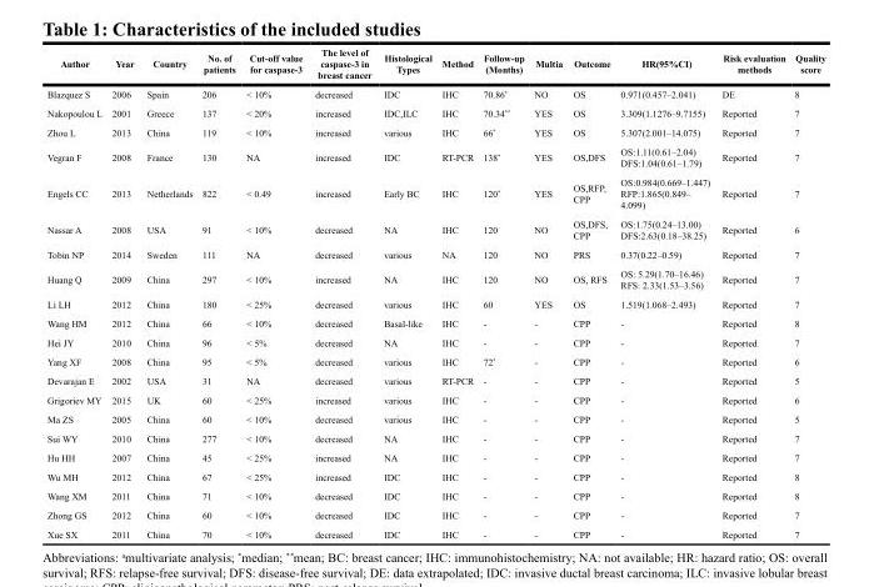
<table><thead><tr><td>Author</td><td>Year</td><td>Country</td><td>No. of patients</td><td>Cut-off value for caspase-3</td><td>The level of caspase-3 in breast cancer</td><td>Histological Types</td><td>Method</td><td>Follow-up (Months)</td><td>Multia</td><td>Outcome</td><td>HR(95%CI)</td><td>Risk evaluation methods</td><td>Quality score</td></tr></thead><tbody><tr><td>Blazquez S</td><td>2006</td><td>Spain</td><td>206</td><td>&lt; 10%</td><td>decreased</td><td>IDC</td><td>IHC</td><td>70.86*</td><td>NO</td><td>OS</td><td>0.971(0.457–2.041)</td><td>DE</td><td>8</td></tr><tr><td>Nakopoulou L</td><td>2001</td><td>Greece</td><td>137</td><td>&lt; 20%</td><td>increased</td><td>IDC,ILC</td><td>IHC</td><td>70.34**</td><td>YES</td><td>OS</td><td>3.309(1.1276–9.7155)</td><td>Reported</td><td>7</td></tr><tr><td>Zhou L</td><td>2013</td><td>China</td><td>119</td><td>&lt; 10%</td><td>increased</td><td>various</td><td>IHC</td><td>66*</td><td>YES</td><td>OS</td><td>5.307(2.001–14.075)</td><td>Reported</td><td>7</td></tr><tr><td>Vegran F</td><td>2008</td><td>France</td><td>130</td><td>NA</td><td>increased</td><td>IDC</td><td>RT-PCR</td><td>138*</td><td>YES</td><td>OS,DFS</td><td>OS:1.11(0.61–2.04) DFS:1.04(0.61–1.79)</td><td>Reported</td><td>7</td></tr><tr><td>Engels CC</td><td>2013</td><td>Netherlands</td><td>822</td><td>&lt; 0.49</td><td>increased</td><td>Early BC</td><td>IHC</td><td>120*</td><td>YES</td><td>OS,RFP, CPP</td><td>OS:0.984(0.669–1.447) RFP:1.865(0.849– 4.099)</td><td>Reported</td><td>7</td></tr><tr><td>Nassar A</td><td>2008</td><td>USA</td><td>91</td><td>&lt; 10%</td><td>decreased</td><td>NA</td><td>IHC</td><td>120</td><td>NO</td><td>OS,DFS, CPP</td><td>OS:1.75(0.24–13.00) DFS:2.63(0.18–38.25)</td><td>Reported</td><td>6</td></tr><tr><td>Tobin NP</td><td>2014</td><td>Sweden</td><td>111</td><td>NA</td><td>decreased</td><td>various</td><td>NA</td><td>120</td><td>NO</td><td>PRS</td><td>0.37(0.22–0.59)</td><td>Reported</td><td>7</td></tr><tr><td>Huang Q</td><td>2009</td><td>China</td><td>297</td><td>&lt; 10%</td><td>increased</td><td>NA</td><td>IHC</td><td>120</td><td>NO</td><td>OS, RFS</td><td>OS: 5.29(1.70–16.46) RFS: 2.33(1.53–3.56)</td><td>Reported</td><td>7</td></tr><tr><td>Li LH</td><td>2012</td><td>China</td><td>180</td><td>&lt; 25%</td><td>decreased</td><td>various</td><td>IHC</td><td>60</td><td>YES</td><td>OS</td><td>1.519(1.068–2.493)</td><td>Reported</td><td>7</td></tr><tr><td>Wang HM</td><td>2012</td><td>China</td><td>66</td><td>&lt; 10%</td><td>decreased</td><td>Basal-like</td><td>IHC</td><td>-</td><td>-</td><td>CPP</td><td>-</td><td>Reported</td><td>8</td></tr><tr><td>Hei JY</td><td>2010</td><td>China</td><td>96</td><td>&lt; 5%</td><td>decreased</td><td>NA</td><td>IHC</td><td>-</td><td>-</td><td>CPP</td><td>-</td><td>Reported</td><td>7</td></tr><tr><td>Yang XF</td><td>2008</td><td>China</td><td>95</td><td>&lt; 5%</td><td>decreased</td><td>various</td><td>IHC</td><td>72*</td><td>-</td><td>CPP</td><td>-</td><td>Reported</td><td>6</td></tr><tr><td>Devarajan E</td><td>2002</td><td>USA</td><td>31</td><td>NA</td><td>decreased</td><td>various</td><td>RT-PCR</td><td>-</td><td>-</td><td>CPP</td><td>-</td><td>Reported</td><td>5</td></tr><tr><td>Grigoriev MY</td><td>2015</td><td>UK</td><td>60</td><td>&lt; 25%</td><td>increased</td><td>various</td><td>IHC</td><td>-</td><td>-</td><td>CPP</td><td>-</td><td>Reported</td><td>6</td></tr><tr><td>Ma ZS</td><td>2005</td><td>China</td><td>60</td><td>&lt; 10%</td><td>decreased</td><td>various</td><td>IHC</td><td>-</td><td>-</td><td>CPP</td><td>-</td><td>Reported</td><td>5</td></tr><tr><td>Sui WY</td><td>2010</td><td>China</td><td>277</td><td>&lt; 10%</td><td>decreased</td><td>NA</td><td>IHC</td><td>-</td><td>-</td><td>CPP</td><td>-</td><td>Reported</td><td>7</td></tr><tr><td>Hu HH</td><td>2007</td><td>China</td><td>45</td><td>&lt; 25%</td><td>increased</td><td>NA</td><td>IHC</td><td>-</td><td>-</td><td>CPP</td><td>-</td><td>Reported</td><td>7</td></tr><tr><td>Wu MH</td><td>2012</td><td>China</td><td>67</td><td>&lt; 25%</td><td>increased</td><td>IDC</td><td>IHC</td><td>-</td><td>-</td><td>CPP</td><td>-</td><td>Reported</td><td>8</td></tr><tr><td>Wang XM</td><td>2011</td><td>China</td><td>71</td><td>&lt; 10%</td><td>decreased</td><td>IDC</td><td>IHC</td><td>-</td><td>-</td><td>CPP</td><td>-</td><td>Reported</td><td>8</td></tr><tr><td>Zhong GS</td><td>2012</td><td>China</td><td>60</td><td>&lt; 10%</td><td>decreased</td><td>IDC</td><td>IHC</td><td>-</td><td>-</td><td>CPP</td><td>-</td><td>Reported</td><td>7</td></tr><tr><td>Xue SX</td><td>2011</td><td>China</td><td>70</td><td>&lt; 10%</td><td>decreased</td><td>IDC</td><td>IHC</td><td>-</td><td>-</td><td>CPP</td><td>-</td><td>Reported</td><td>7</td></tr></tbody></table>